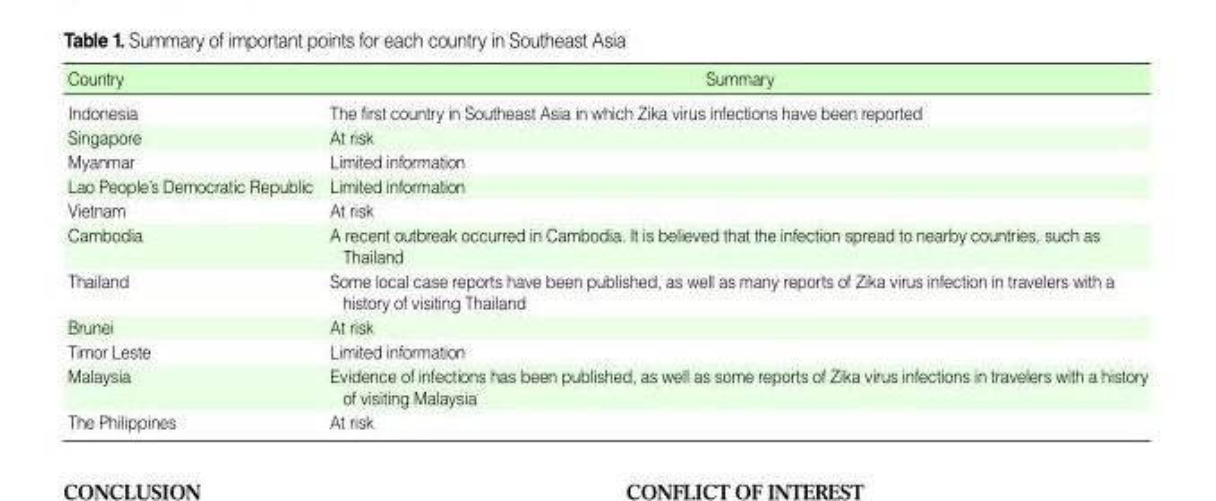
<table><thead><tr><td>Country</td><td>Summary</td></tr></thead><tbody><tr><td>Indonesia</td><td>The first country in Southeast Asia in which Zika virus infections have been reported</td></tr><tr><td>Singapore</td><td>At risk</td></tr><tr><td>Myanmar</td><td>Limited information</td></tr><tr><td>Lao People’s Democratic Republic</td><td>Limited information</td></tr><tr><td>Vietnam</td><td>At risk</td></tr><tr><td>Cambodia</td><td>A recent outbreak occurred in Cambodia. It is believed that the infection spread to nearby countries, such as Thailand</td></tr><tr><td>Thailand</td><td>Some local case reports have been published, as well as many reports of Zika virus infection in travelers with a history of visiting Thailand</td></tr><tr><td>Brunei</td><td>At risk</td></tr><tr><td>Timor Leste</td><td>Limited information</td></tr><tr><td>Malaysia</td><td>Evidence of infections has been published, as well as some reports of Zika virus infections in travelers with a history of visiting Malaysia</td></tr><tr><td>The Philippines</td><td>At risk</td></tr></tbody></table>